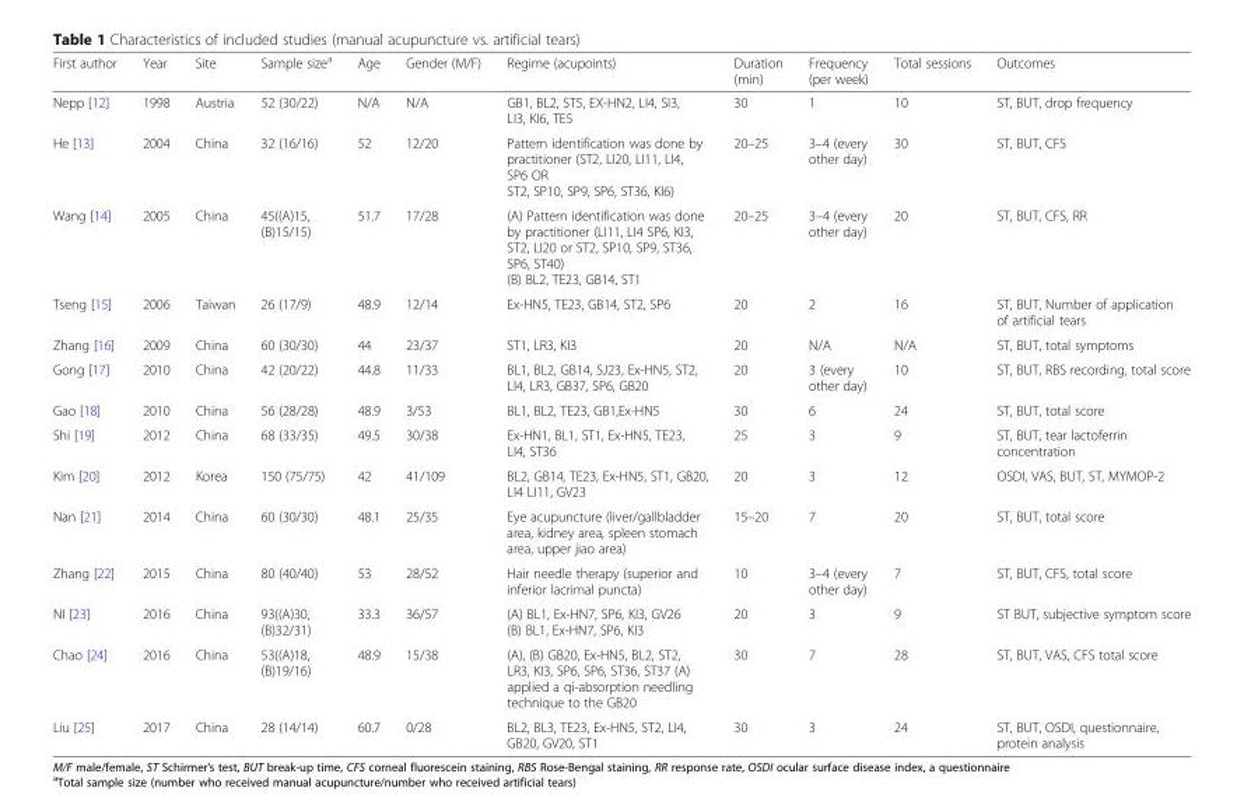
<table><thead><tr><td>First author</td><td>Year</td><td>Site</td><td>Sample size<sup>a</sup></td><td>Age</td><td>Gender (M/F)</td><td>Regime (acupoints)</td><td>Duration (min)</td><td>Frequency (per week)</td><td>Total sessions</td><td>Outcomes</td></tr></thead><tbody><tr><td>Nepp [12]</td><td>1998</td><td>Austria</td><td>52 (30/22)</td><td>N/A</td><td>N/A</td><td>GB1, BL2, ST5, EX-HN2, LI4, SI3, LI3, KI6, TE5</td><td>30</td><td>1</td><td>10</td><td>ST, BUT, drop frequency</td></tr><tr><td>He [13]</td><td>2004</td><td>China</td><td>32 (16/16)</td><td>52</td><td>12/20</td><td>Pattern identification was done by practitioner (ST2, LI20, LI11, LI4, SP6 OR ST2, SP10, SP9, SP6, ST36, KI6)</td><td>20–25</td><td>3–4 (every other day)</td><td>30</td><td>ST, BUT, CFS</td></tr><tr><td>Wang [14]</td><td>2005</td><td>China</td><td>45((A)15, (B)15/15)</td><td>51.7</td><td>17/28</td><td>(A) Pattern identification was done by practitioner (LI11, LI4 SP6, KI3, ST2, LI20 or ST2, SP10, SP9, ST36, SP6, ST40) (B) BL2, TE23, GB14, ST1</td><td>20–25</td><td>3–4 (every other day)</td><td>20</td><td>ST, BUT, CFS, RR</td></tr><tr><td>Tseng [15]</td><td>2006</td><td>Taiwan</td><td>26 (17/9)</td><td>48.9</td><td>12/14</td><td>Ex-HN5, TE23, GB14, ST2, SP6</td><td>20</td><td>2</td><td>16</td><td>ST, BUT, Number of application of artificial tears</td></tr><tr><td>Zhang [16]</td><td>2009</td><td>China</td><td>60 (30/30)</td><td>44</td><td>23/37</td><td>ST1, LR3, KI3</td><td>20</td><td>N/A</td><td>N/A</td><td>ST, BUT, total symptoms</td></tr><tr><td>Gong [17]</td><td>2010</td><td>China</td><td>42 (20/22)</td><td>44.8</td><td>11/33</td><td>BL1, BL2, GB14, SJ23, Ex-HN5, ST2, LI4, LR3, GB37, SP6, GB20</td><td>20</td><td>3 (every other day)</td><td>10</td><td>ST, BUT, RBS recording, total score</td></tr><tr><td>Gao [18]</td><td>2010</td><td>China</td><td>56 (28/28)</td><td>48.9</td><td>3/53</td><td>BL1, BL2, TE23, GB1,Ex-HN5</td><td>30</td><td>6</td><td>24</td><td>ST, BUT, total score</td></tr><tr><td>Shi [19]</td><td>2012</td><td>China</td><td>68 (33/35)</td><td>49.5</td><td>30/38</td><td>Ex-HN1, BL1, ST1, Ex-HN5, TE23, LI4, ST36</td><td>25</td><td>3</td><td>9</td><td>ST, BUT, tear lactoferrin concentration</td></tr><tr><td>Kim [20]</td><td>2012</td><td>Korea</td><td>150 (75/75)</td><td>42</td><td>41/109</td><td>BL2, GB14, TE23, Ex-HN5, ST1, GB20, LI4 LI11, GV23</td><td>20</td><td>3</td><td>12</td><td>OSDI, VAS, BUT, ST, MYMOP-2</td></tr><tr><td>Nan [21]</td><td>2014</td><td>China</td><td>60 (30/30)</td><td>48.1</td><td>25/35</td><td>Eye acupuncture (liver/gallbladder area, kidney area, spleen stomach area, upper jiao area)</td><td>15–20</td><td>7</td><td>20</td><td>ST, BUT, total score</td></tr><tr><td>Zhang [22]</td><td>2015</td><td>China</td><td>80 (40/40)</td><td>53</td><td>28/52</td><td>Hair needle therapy (superior and inferior lacrimal puncta)</td><td>10</td><td>3–4 (every other day)</td><td>7</td><td>ST, BUT, CFS, total score</td></tr><tr><td>NI [23]</td><td>2016</td><td>China</td><td>93((A)30, (B)32/31)</td><td>33.3</td><td>36/57</td><td>(A) BL1, Ex-HN7, SP6, KI3, GV26 (B) BL1, Ex-HN7, SP6, KI3</td><td>20</td><td>3</td><td>9</td><td>ST BUT, subjective symptom score</td></tr><tr><td>Chao [24]</td><td>2016</td><td>China</td><td>53((A)18, (B)19/16)</td><td>48.9</td><td>15/38</td><td>(A), (B) GB20, Ex-HN5, BL2, ST2, LR3, KI3, SP6, SP6, ST36, ST37 (A) applied a qi-absorption needling technique to the GB20</td><td>30</td><td>7</td><td>28</td><td>ST, BUT, VAS, CFS total score</td></tr><tr><td>Liu [25]</td><td>2017</td><td>China</td><td>28 (14/14)</td><td>60.7</td><td>0/28</td><td>BL2, BL3, TE23, Ex-HN5, ST2, LI4, GB20, GV20, ST1</td><td>30</td><td>3</td><td>24</td><td>ST, BUT, OSDI, questionnaire, protein analysis</td></tr></tbody></table>